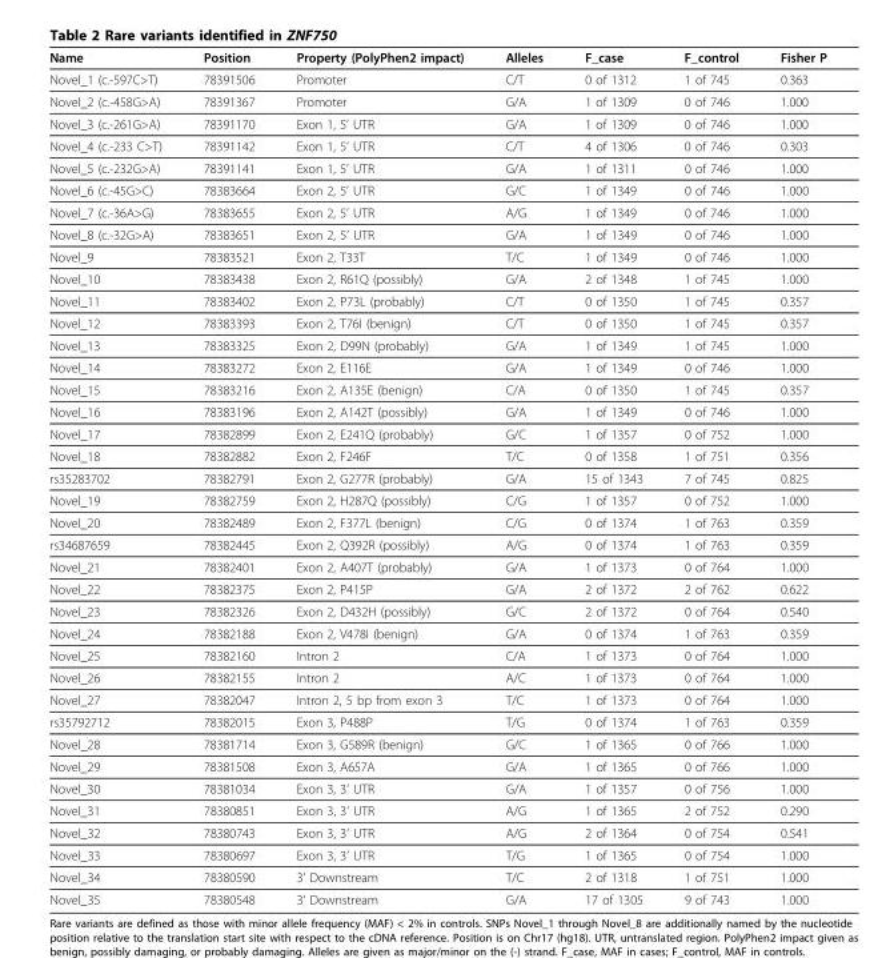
<table><thead><tr><td>Name</td><td>Position</td><td>Property (PolyPhen2 impact)</td><td>Alleles</td><td>F_case</td><td>F_control</td><td>Fisher P</td></tr></thead><tbody><tr><td>Novel_1 (c.-597C&gt;T)</td><td>78391506</td><td>Promoter</td><td>C/T</td><td>0 of 1312</td><td>1 of 745</td><td>0.363</td></tr><tr><td>Novel_2 (c.-458G&gt;A)</td><td>78391367</td><td>Promoter</td><td>G/A</td><td>1 of 1309</td><td>0 of 746</td><td>1.000</td></tr><tr><td>Novel_3 (c.-261G&gt;A)</td><td>78391170</td><td>Exon 1, 5’ UTR</td><td>G/A</td><td>1 of 1309</td><td>0 of 746</td><td>1.000</td></tr><tr><td>Novel_4 (c.-233 C&gt;T)</td><td>78391142</td><td>Exon 1, 5’ UTR</td><td>C/T</td><td>4 of 1306</td><td>0 of 746</td><td>0.303</td></tr><tr><td>Novel_5 (c.-232G&gt;A)</td><td>78391141</td><td>Exon 1, 5’ UTR</td><td>G/A</td><td>1 of 1311</td><td>0 of 746</td><td>1.000</td></tr><tr><td>Novel_6 (c.-45G&gt;C)</td><td>78383664</td><td>Exon 2, 5’ UTR</td><td>G/C</td><td>1 of 1349</td><td>0 of 746</td><td>1.000</td></tr><tr><td>Novel_7 (c.-36A&gt;G)</td><td>78383655</td><td>Exon 2, 5’ UTR</td><td>A/G</td><td>1 of 1349</td><td>0 of 746</td><td>1.000</td></tr><tr><td>Novel_8 (c.-32G&gt;A)</td><td>78383651</td><td>Exon 2, 5’ UTR</td><td>G/A</td><td>1 of 1349</td><td>0 of 746</td><td>1.000</td></tr><tr><td>Novel_9</td><td>78383521</td><td>Exon 2, T33T</td><td>T/C</td><td>1 of 1349</td><td>0 of 746</td><td>1.000</td></tr><tr><td>Novel_10</td><td>78383438</td><td>Exon 2, R61Q (possibly)</td><td>G/A</td><td>2 of 1348</td><td>1 of 745</td><td>1.000</td></tr><tr><td>Novel_11</td><td>78383402</td><td>Exon 2, P73L (probably)</td><td>C/T</td><td>0 of 1350</td><td>1 of 745</td><td>0.357</td></tr><tr><td>Novel_12</td><td>78383393</td><td>Exon 2, T76I (benign)</td><td>C/T</td><td>0 of 1350</td><td>1 of 745</td><td>0.357</td></tr><tr><td>Novel_13</td><td>78383325</td><td>Exon 2, D99N (probably)</td><td>G/A</td><td>1 of 1349</td><td>1 of 745</td><td>1.000</td></tr><tr><td>Novel_14</td><td>78383272</td><td>Exon 2, E116E</td><td>G/A</td><td>1 of 1349</td><td>0 of 746</td><td>1.000</td></tr><tr><td>Novel_15</td><td>78383216</td><td>Exon 2, A135E (benign)</td><td>C/A</td><td>0 of 1350</td><td>1 of 745</td><td>0.357</td></tr><tr><td>Novel_16</td><td>78383196</td><td>Exon 2, A142T (possibly)</td><td>G/A</td><td>1 of 1349</td><td>0 of 746</td><td>1.000</td></tr><tr><td>Novel_17</td><td>78382899</td><td>Exon 2, E241Q (probably)</td><td>G/C</td><td>1 of 1357</td><td>0 of 752</td><td>1.000</td></tr><tr><td>Novel_18</td><td>78382882</td><td>Exon 2, F246F</td><td>T/C</td><td>0 of 1358</td><td>1 of 751</td><td>0.356</td></tr><tr><td>rs35283702</td><td>78382791</td><td>Exon 2, G277R (probably)</td><td>G/A</td><td>15 of 1343</td><td>7 of 745</td><td>0.825</td></tr><tr><td>Novel_19</td><td>78382759</td><td>Exon 2, H287Q (possibly)</td><td>C/G</td><td>1 of 1357</td><td>0 of 752</td><td>1.000</td></tr><tr><td>Novel_20</td><td>78382489</td><td>Exon 2, F377L (benign)</td><td>C/G</td><td>0 of 1374</td><td>1 of 763</td><td>0.359</td></tr><tr><td>rs34687659</td><td>78382445</td><td>Exon 2, Q392R (possibly)</td><td>A/G</td><td>0 of 1374</td><td>1 of 763</td><td>0.359</td></tr><tr><td>Novel_21</td><td>78382401</td><td>Exon 2, A407T (probably)</td><td>G/A</td><td>1 of 1373</td><td>0 of 764</td><td>1.000</td></tr><tr><td>Novel_22</td><td>78382375</td><td>Exon 2, P415P</td><td>G/A</td><td>2 of 1372</td><td>2 of 762</td><td>0.622</td></tr><tr><td>Novel_23</td><td>78382326</td><td>Exon 2, D432H (possibly)</td><td>G/C</td><td>2 of 1372</td><td>0 of 764</td><td>0.540</td></tr><tr><td>Novel_24</td><td>78382188</td><td>Exon 2, V478I (benign)</td><td>G/A</td><td>0 of 1374</td><td>1 of 763</td><td>0.359</td></tr><tr><td>Novel_25</td><td>78382160</td><td>Intron 2</td><td>C/A</td><td>1 of 1373</td><td>0 of 764</td><td>1.000</td></tr><tr><td>Novel_26</td><td>78382155</td><td>Intron 2</td><td>A/C</td><td>1 of 1373</td><td>0 of 764</td><td>1.000</td></tr><tr><td>Novel_27</td><td>78382047</td><td>Intron 2, 5 bp from exon 3</td><td>T/C</td><td>1 of 1373</td><td>0 of 764</td><td>1.000</td></tr><tr><td>rs35792712</td><td>78382015</td><td>Exon 3, P488P</td><td>T/G</td><td>0 of 1374</td><td>1 of 763</td><td>0.359</td></tr><tr><td>Novel_28</td><td>78381714</td><td>Exon 3, G589R (benign)</td><td>G/C</td><td>1 of 1365</td><td>0 of 766</td><td>1.000</td></tr><tr><td>Novel_29</td><td>78381508</td><td>Exon 3, A657A</td><td>G/A</td><td>1 of 1365</td><td>0 of 766</td><td>1.000</td></tr><tr><td>Novel_30</td><td>78381034</td><td>Exon 3, 3’ UTR</td><td>G/A</td><td>1 of 1357</td><td>0 of 756</td><td>1.000</td></tr><tr><td>Novel_31</td><td>78380851</td><td>Exon 3, 3’ UTR</td><td>A/G</td><td>1 of 1365</td><td>2 of 752</td><td>0.290</td></tr><tr><td>Novel_32</td><td>78380743</td><td>Exon 3, 3’ UTR</td><td>A/G</td><td>2 of 1364</td><td>0 of 754</td><td>0.541</td></tr><tr><td>Novel_33</td><td>78380697</td><td>Exon 3, 3’ UTR</td><td>T/G</td><td>1 of 1365</td><td>0 of 754</td><td>1.000</td></tr><tr><td>Novel_34</td><td>78380590</td><td>3’ Downstream</td><td>T/C</td><td>2 of 1318</td><td>1 of 751</td><td>1.000</td></tr><tr><td>Novel_35</td><td>78380548</td><td>3’ Downstream</td><td>G/A</td><td>17 of 1305</td><td>9 of 743</td><td>1.000</td></tr></tbody></table>